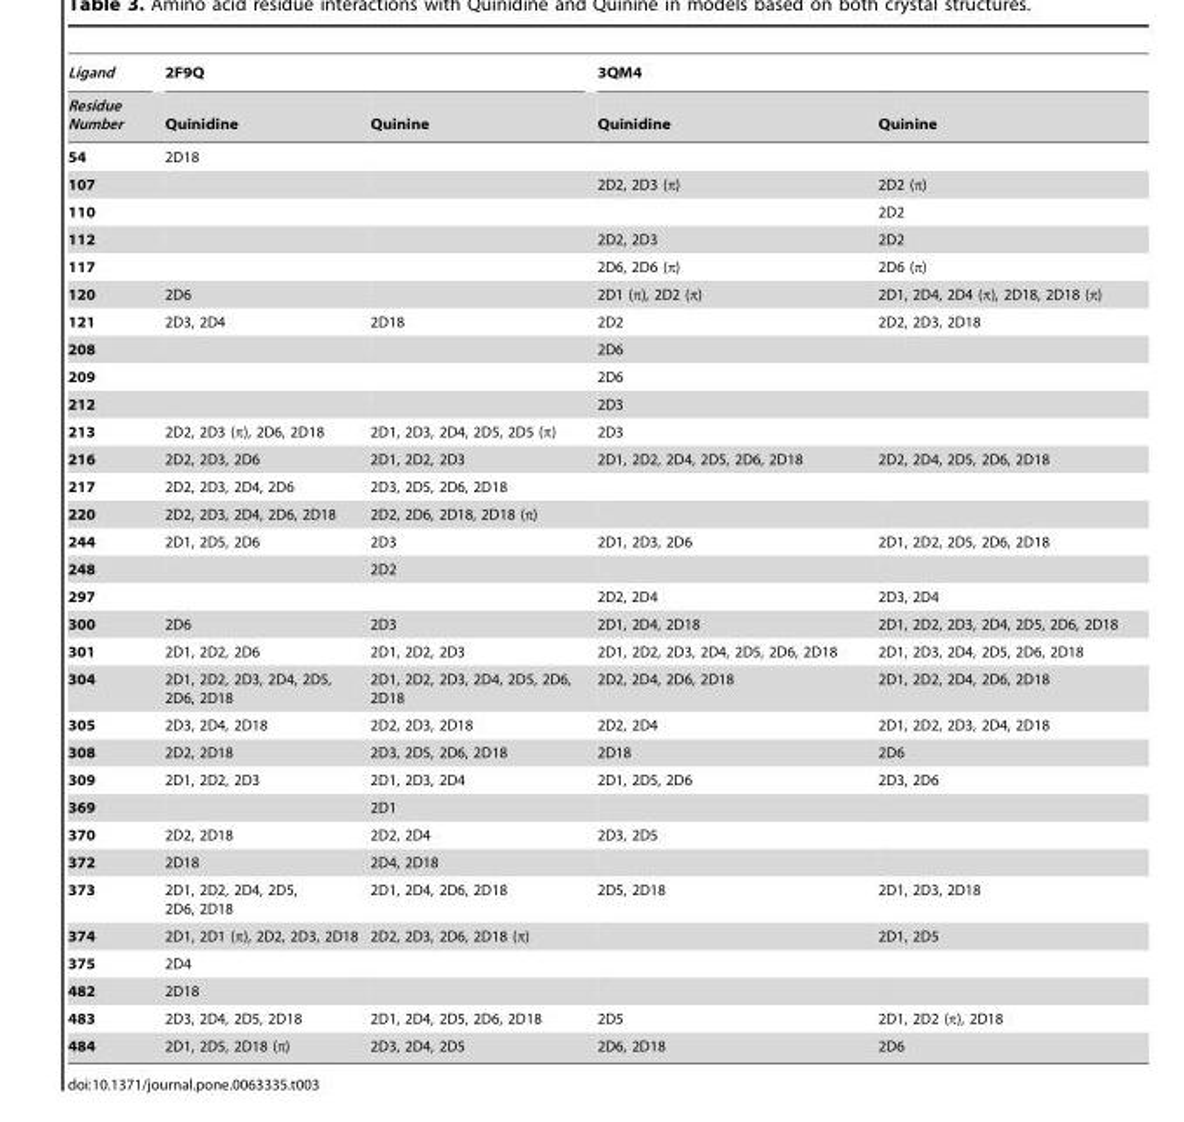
<table><thead><tr><td rowspan="2">Ligand Residue Number</td><td colspan="2">2F9Q</td><td colspan="2">3QM4</td></tr><tr><td>Quinidine</td><td>Quinine</td><td>Quinidine</td><td>Quinine</td></tr></thead><tbody><tr><td>54</td><td>2D18</td><td></td><td></td><td></td></tr><tr><td>107</td><td></td><td></td><td>2D2, 2D3 (π)</td><td>2D2 (π)</td></tr><tr><td>110</td><td></td><td></td><td></td><td>2D2</td></tr><tr><td>112</td><td></td><td></td><td>2D2, 2D3</td><td>2D2</td></tr><tr><td>117</td><td></td><td></td><td>2D6, 2D6 (π)</td><td>2D6 (π)</td></tr><tr><td>120</td><td>2D6</td><td></td><td>2D1 (π), 2D2 (π)</td><td>2D1, 2D4, 2D4 (π), 2D18, 2D18 (π)</td></tr><tr><td>121</td><td>2D3, 2D4</td><td>2D18</td><td>2D2</td><td>2D2, 2D3, 2D18</td></tr><tr><td>208</td><td></td><td></td><td>2D6</td><td></td></tr><tr><td>209</td><td></td><td></td><td>2D6</td><td></td></tr><tr><td>212</td><td></td><td></td><td>2D3</td><td></td></tr><tr><td>213</td><td>2D2, 2D3 (π), 2D6, 2D18</td><td>2D1, 2D3, 2D4, 2D5, 2D5 (π)</td><td>2D3</td><td></td></tr><tr><td>216</td><td>2D2, 2D3, 2D6</td><td>2D1, 2D2, 2D3</td><td>2D1, 2D2, 2D4, 2D5, 2D6, 2D18</td><td>2D2, 2D4, 2D5, 2D6, 2D18</td></tr><tr><td>217</td><td>2D2, 2D3, 2D4, 2D6</td><td>2D3, 2D5, 2D6, 2D18</td><td></td><td></td></tr><tr><td>220</td><td>2D2, 2D3, 2D4, 2D6, 2D18</td><td>2D2, 2D6, 2D18, 2D18 (π)</td><td></td><td></td></tr><tr><td>244</td><td>2D1, 2D5, 2D6</td><td>2D3</td><td>2D1, 2D3, 2D6</td><td>2D1, 2D2, 2D5, 2D6, 2D18</td></tr><tr><td>248</td><td></td><td>2D2</td><td></td><td></td></tr><tr><td>297</td><td></td><td></td><td>2D2, 2D4</td><td>2D3, 2D4</td></tr><tr><td>300</td><td>2D6</td><td>2D3</td><td>2D1, 2D4, 2D18</td><td>2D1, 2D2, 2D3, 2D4, 2D5, 2D6, 2D18</td></tr><tr><td>301</td><td>2D1, 2D2, 2D6</td><td>2D1, 2D2, 2D3</td><td>2D1, 2D2, 2D3, 2D4, 2D5, 2D6, 2D18</td><td>2D1, 2D3, 2D4, 2D5, 2D6, 2D18</td></tr><tr><td>304</td><td>2D1, 2D2, 2D3, 2D4, 2D5, 2D6, 2D18</td><td>2D1, 2D2, 2D3, 2D4, 2D5, 2D6, 2D18</td><td>2D2, 2D4, 2D6, 2D18</td><td>2D1, 2D2, 2D4, 2D6, 2D18</td></tr><tr><td>305</td><td>2D3, 2D4, 2D18</td><td>2D2, 2D3, 2D18</td><td>2D2, 2D4</td><td>2D1, 2D2, 2D3, 2D4, 2D18</td></tr><tr><td>308</td><td>2D2, 2D18</td><td>2D3, 2D5, 2D6, 2D18</td><td>2D18</td><td>2D6</td></tr><tr><td>309</td><td>2D1, 2D2, 2D3</td><td>2D1, 2D3, 2D4</td><td>2D1, 2D5, 2D6</td><td>2D3, 2D6</td></tr><tr><td>369</td><td></td><td>2D1</td><td></td><td></td></tr><tr><td>370</td><td>2D2, 2D18</td><td>2D2, 2D4</td><td>2D3, 2D5</td><td></td></tr><tr><td>372</td><td>2D18</td><td>2D4, 2D18</td><td></td><td></td></tr><tr><td>373</td><td>2D1, 2D2, 2D4, 2D5, 2D6, 2D18</td><td>2D1, 2D4, 2D6, 2D18</td><td>2D5, 2D18</td><td>2D1, 2D3, 2D18</td></tr><tr><td>374</td><td>2D1, 2D1 (π), 2D2, 2D3, 2D18</td><td>2D2, 2D3, 2D6, 2D18 (π)</td><td></td><td>2D1, 2D5</td></tr><tr><td>375</td><td>2D4</td><td></td><td></td><td></td></tr><tr><td>482</td><td>2D18</td><td></td><td></td><td></td></tr><tr><td>483</td><td>2D3, 2D4, 2D5, 2D18</td><td>2D1, 2D4, 2D5, 2D6, 2D18</td><td>2D5</td><td>2D1, 2D2 (π), 2D18</td></tr><tr><td>484</td><td>2D1, 2D5, 2D18 (π)</td><td>2D3, 2D4, 2D5</td><td>2D6, 2D18</td><td>2D6</td></tr></tbody></table>